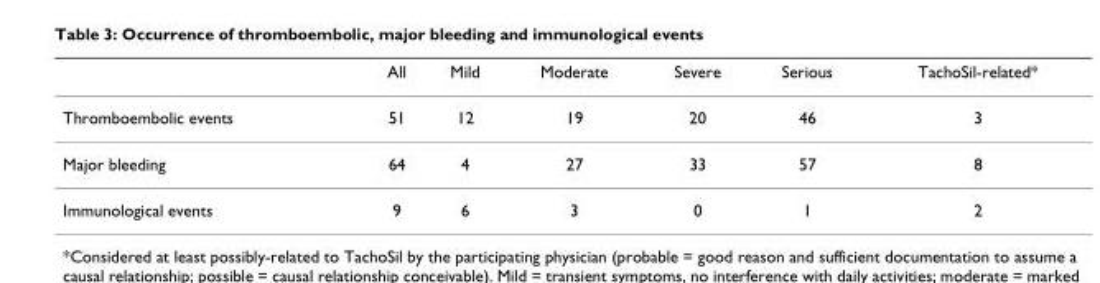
<table><thead><tr><td></td><td>All</td><td>Mild</td><td>Moderate</td><td>Severe</td><td>Serious</td><td>TachoSil-related*</td></tr></thead><tbody><tr><td>Thromboembolic events</td><td>51</td><td>12</td><td>19</td><td>20</td><td>46</td><td>3</td></tr><tr><td>Major bleeding</td><td>64</td><td>4</td><td>27</td><td>33</td><td>57</td><td>8</td></tr><tr><td>Immunological events</td><td>9</td><td>6</td><td>3</td><td>0</td><td>1</td><td>2</td></tr></tbody></table>